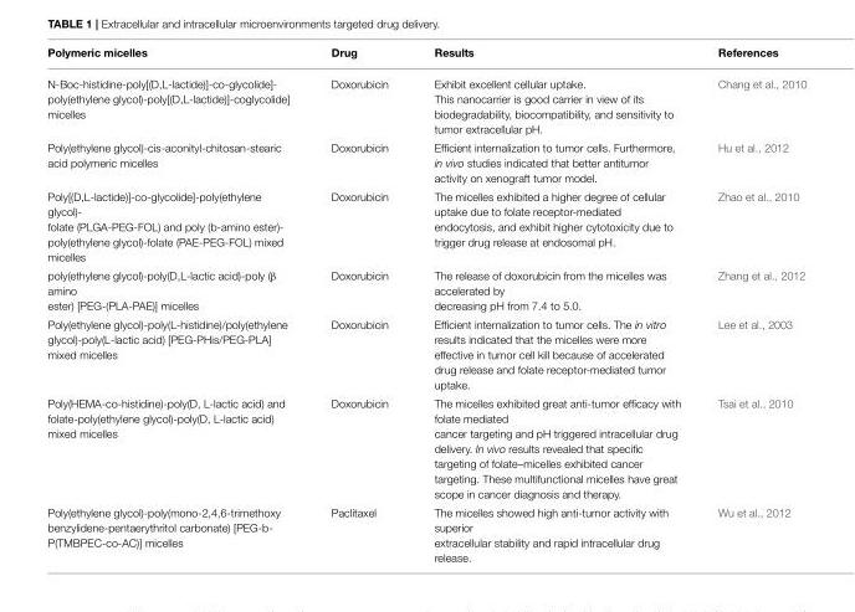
<table><thead><tr><td>Polymeric micelles</td><td>Drug</td><td>Results</td><td>References</td></tr></thead><tbody><tr><td>N-Boc-histidine-poly[(D,L-lactide)]-co-glycolide]- poly(ethylene glycol)-poly[(D,L-lactide)]-coglycolide] micelles</td><td>Doxorubicin</td><td>Exhibit excellent cellular uptake. This nanocarrier is good carrier in view of its biodegradability, biocompatibility, and sensitivity to tumor extracellular pH.</td><td>Chang et al., 2010</td></tr><tr><td>Poly(ethylene glycol)-cis-aconityl-chitosan-stearic acid polymeric micelles</td><td>Doxorubicin</td><td>Efficient internalization to tumor cells. Furthermore, in vivo studies indicated that better antitumor activity on xenograft tumor model.</td><td>Hu et al., 2012</td></tr><tr><td>Poly[(D,L-lactide)]-co-glycolide]-poly(ethylene glycol)- folate (PLGA-PEG-FOL) and poly (b-amino ester)- poly(ethylene glycol)-folate (PAE-PEG-FOL) mixed micelles</td><td>Doxorubicin</td><td>The micelles exhibited a higher degree of cellular uptake due to folate receptor-mediated endocytosis, and exhibit higher cytotoxicity due to trigger drug release at endosomal pH.</td><td>Zhao et al., 2010</td></tr><tr><td>poly(ethylene glycol)-poly(D,L-lactic acid)-poly (β amino ester) [PEG-(PLA-PAE)] micelles</td><td>Doxorubicin</td><td>The release of doxorubicin from the micelles was accelerated by decreasing pH from 7.4 to 5.0.</td><td>Zhang et al., 2012</td></tr><tr><td>Poly(ethylene glycol)-poly(L-histidine)/poly(ethylene glycol)-poly(L-lactic acid) [PEG-PHis/PEG-PLA] mixed micelles</td><td>Doxorubicin</td><td>Efficient internalization to tumor cells. The in vitro results indicated that the micelles were more effective in tumor cell kill because of accelerated drug release and folate receptor-mediated tumor uptake.</td><td>Lee et al., 2003</td></tr><tr><td>Poly(HEMA-co-histidine)-poly(D, L-lactic acid) and folate-poly(ethylene glycol)-poly(D, L-lactic acid) mixed micelles</td><td>Doxorubicin</td><td>The micelles exhibited great anti-tumor efficacy with folate mediated cancer targeting and pH triggered intracellular drug delivery. In vivo results revealed that specific targeting of folate–micelles exhibited cancer targeting. These multifunctional micelles have great scope in cancer diagnosis and therapy.</td><td>Tsai et al., 2010</td></tr><tr><td>Poly(ethylene glycol)-poly(mono-2,4,6-trimethoxy benzylidene-pentaerythritol carbonate) [PEG-b- P(TMBPEC-co-AC)] micelles</td><td>Paclitaxel</td><td>The micelles showed high anti-tumor activity with superior extracellular stability and rapid intracellular drug release.</td><td>Wu et al., 2012</td></tr></tbody></table>